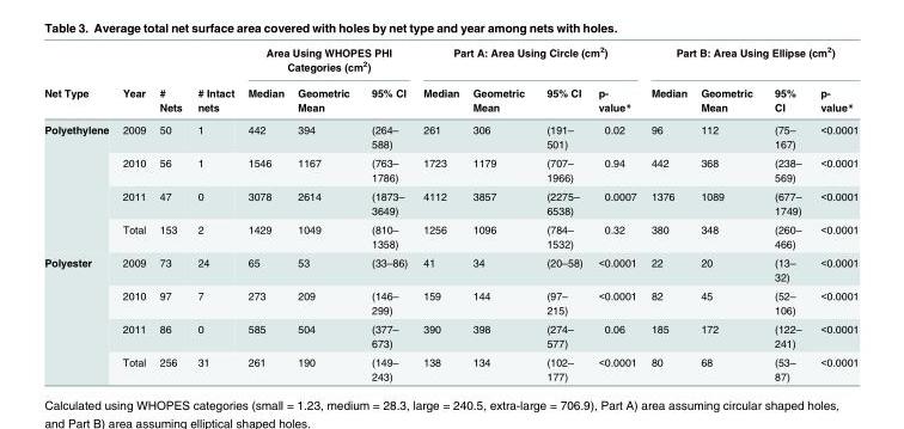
<table><thead><tr><td rowspan="2">Net Type</td><td rowspan="2">Year</td><td rowspan="2"># Nets</td><td rowspan="2"># Intact nets</td><td colspan="3">Area Using WHOPES PHI Categories (cm<sup>2</sup>)</td><td colspan="4">Part A: Area Using Circle (cm<sup>2</sup>)</td><td colspan="4">Part B: Area Using Ellipse (cm<sup>2</sup>)</td></tr><tr><td>Median</td><td>Geometric Mean</td><td>95% CI</td><td>Median</td><td>Geometric Mean</td><td>95% CI</td><td>p- value*</td><td>Median</td><td>Geometric Mean</td><td>95% CI</td><td>p- value*</td></tr></thead><tbody><tr><td rowspan="4">Polyethylene</td><td>2009</td><td>50</td><td>1</td><td>442</td><td>394</td><td>(264– 588)</td><td>261</td><td>306</td><td>(191– 501)</td><td>0.02</td><td>96</td><td>112</td><td>(75– 167)</td><td>&lt;0.0001</td></tr><tr><td>2010</td><td>56</td><td>1</td><td>1546</td><td>1167</td><td>(763– 1786)</td><td>1723</td><td>1179</td><td>(707– 1966)</td><td>0.94</td><td>442</td><td>368</td><td>(238– 569)</td><td>&lt;0.0001</td></tr><tr><td>2011</td><td>47</td><td>0</td><td>3078</td><td>2614</td><td>(1873– 3649)</td><td>4112</td><td>3857</td><td>(2275– 6538)</td><td>0.0007</td><td>1376</td><td>1089</td><td>(677– 1749)</td><td>&lt;0.0001</td></tr><tr><td>Total</td><td>153</td><td>2</td><td>1429</td><td>1049</td><td>(810– 1358)</td><td>1256</td><td>1096</td><td>(784– 1532)</td><td>0.32</td><td>380</td><td>348</td><td>(260– 466)</td><td>&lt;0.0001</td></tr><tr><td rowspan="4">Polyester</td><td>2009</td><td>73</td><td>24</td><td>65</td><td>53</td><td>(33–86)</td><td>41</td><td>34</td><td>(20–58)</td><td>&lt;0.0001</td><td>22</td><td>20</td><td>(13– 32)</td><td>&lt;0.0001</td></tr><tr><td>2010</td><td>97</td><td>7</td><td>273</td><td>209</td><td>(146– 299)</td><td>159</td><td>144</td><td>(97– 215)</td><td>&lt;0.0001</td><td>82</td><td>45</td><td>(52– 106)</td><td>&lt;0.0001</td></tr><tr><td>2011</td><td>86</td><td>0</td><td>585</td><td>504</td><td>(377– 673)</td><td>390</td><td>398</td><td>(274– 577)</td><td>0.06</td><td>185</td><td>172</td><td>(122– 241)</td><td>&lt;0.0001</td></tr><tr><td>Total</td><td>256</td><td>31</td><td>261</td><td>190</td><td>(149– 243)</td><td>138</td><td>134</td><td>(102– 177)</td><td>&lt;0.0001</td><td>80</td><td>68</td><td>(53– 87)</td><td>&lt;0.0001</td></tr></tbody></table>